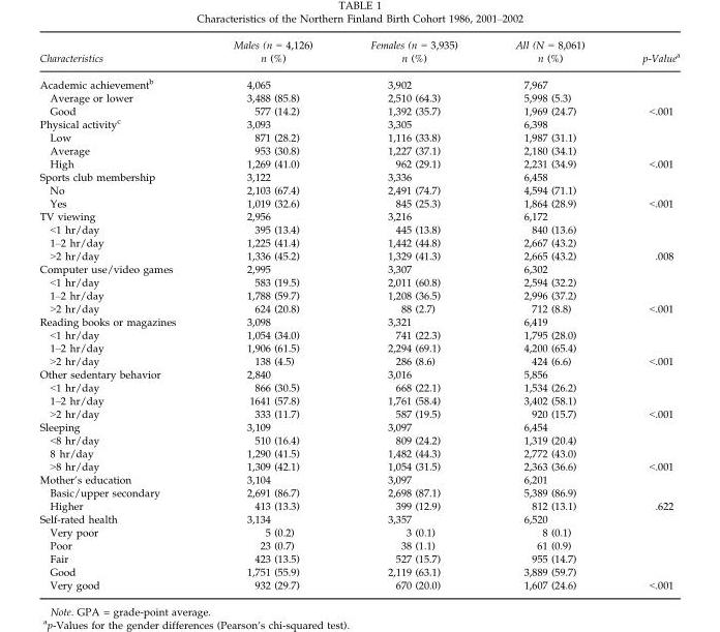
<table><thead><tr><td rowspan="2">Characteristics</td><td rowspan="2">Males (n = 4,126) n (%)</td><td rowspan="2">Females (n = 3,935) n (%)</td><td rowspan="2">All (N = 8,061) n (%)</td><td rowspan="2">p-Valuea</td></tr><tr></tr></thead><tbody><tr><td>Academic achievement<sup>b</sup></td><td>4,065</td><td>3,902</td><td>7,967</td><td></td></tr><tr><td>Average or lower</td><td>3,488 (85.8)</td><td>2,510 (64.3)</td><td>5,998 (5.3)</td><td></td></tr><tr><td>Good</td><td>577 (14.2)</td><td>1,392 (35.7)</td><td>1,969 (24.7)</td><td>&lt;.001</td></tr><tr><td>Physical activity<sup>c</sup></td><td>3,093</td><td>3,305</td><td>6,398</td><td></td></tr><tr><td>Low</td><td>871 (28.2)</td><td>1,116 (33.8)</td><td>1,987 (31.1)</td><td></td></tr><tr><td>Average</td><td>953 (30.8)</td><td>1,227 (37.1)</td><td>2,180 (34.1)</td><td></td></tr><tr><td>High</td><td>1,269 (41.0)</td><td>962 (29.1)</td><td>2,231 (34.9)</td><td>&lt;.001</td></tr><tr><td>Sports club membership</td><td>3,122</td><td>3,336</td><td>6,458</td><td></td></tr><tr><td>No</td><td>2,103 (67.4)</td><td>2,491 (74.7)</td><td>4,594 (71.1)</td><td></td></tr><tr><td>Yes</td><td>1,019 (32.6)</td><td>845 (25.3)</td><td>1,864 (28.9)</td><td>&lt;.001</td></tr><tr><td>TV viewing</td><td>2,956</td><td>3,216</td><td>6,172</td><td></td></tr><tr><td>&lt;1 hr/day</td><td>395 (13.4)</td><td>445 (13.8)</td><td>840 (13.6)</td><td></td></tr><tr><td>1–2 hr/day</td><td>1,225 (41.4)</td><td>1,442 (44.8)</td><td>2,667 (43.2)</td><td></td></tr><tr><td>&gt;2 hr/day</td><td>1,336 (45.2)</td><td>1,329 (41.3)</td><td>2,665 (43.2)</td><td>.008</td></tr><tr><td>Computer use/video games</td><td>2,995</td><td>3,307</td><td>6,302</td><td></td></tr><tr><td>&lt;1 hr/day</td><td>583 (19.5)</td><td>2,011 (60.8)</td><td>2,594 (32.2)</td><td></td></tr><tr><td>1–2 hr/day</td><td>1,788 (59.7)</td><td>1,208 (36.5)</td><td>2,996 (37.2)</td><td></td></tr><tr><td>&gt;2 hr/day</td><td>624 (20.8)</td><td>88 (2.7)</td><td>712 (8.8)</td><td>&lt;.001</td></tr><tr><td>Reading books or magazines</td><td>3,098</td><td>3,321</td><td>6,419</td><td></td></tr><tr><td>&lt;1 hr/day</td><td>1,054 (34.0)</td><td>741 (22.3)</td><td>1,795 (28.0)</td><td></td></tr><tr><td>1–2 hr/day</td><td>1,906 (61.5)</td><td>2,294 (69.1)</td><td>4,200 (65.4)</td><td></td></tr><tr><td>&gt;2 hr/day</td><td>138 (4.5)</td><td>286 (8.6)</td><td>424 (6.6)</td><td>&lt;.001</td></tr><tr><td>Other sedentary behavior</td><td>2,840</td><td>3,016</td><td>5,856</td><td></td></tr><tr><td>&lt;1 hr/day</td><td>866 (30.5)</td><td>668 (22.1)</td><td>1,534 (26.2)</td><td></td></tr><tr><td>1–2 hr/day</td><td>1641 (57.8)</td><td>1,761 (58.4)</td><td>3,402 (58.1)</td><td></td></tr><tr><td>&gt;2 hr/day</td><td>333 (11.7)</td><td>587 (19.5)</td><td>920 (15.7)</td><td>&lt;.001</td></tr><tr><td>Sleeping</td><td>3,109</td><td>3,097</td><td>6,454</td><td></td></tr><tr><td>&lt;8 hr/day</td><td>510 (16.4)</td><td>809 (24.2)</td><td>1,319 (20.4)</td><td></td></tr><tr><td>8 hr/day</td><td>1,290 (41.5)</td><td>1,482 (44.3)</td><td>2,772 (43.0)</td><td></td></tr><tr><td>&gt;8 hr/day</td><td>1,309 (42.1)</td><td>1,054 (31.5)</td><td>2,363 (36.6)</td><td>&lt;.001</td></tr><tr><td>Mother’s education</td><td>3,104</td><td>3,097</td><td>6,201</td><td></td></tr><tr><td>Basic/upper secondary</td><td>2,691 (86.7)</td><td>2,698 (87.1)</td><td>5,389 (86.9)</td><td></td></tr><tr><td>Higher</td><td>413 (13.3)</td><td>399 (12.9)</td><td>812 (13.1)</td><td>.622</td></tr><tr><td>Self-rated health</td><td>3,134</td><td>3,357</td><td>6,520</td><td></td></tr><tr><td>Very poor</td><td>5 (0.2)</td><td>3 (0.1)</td><td>8 (0.1)</td><td></td></tr><tr><td>Poor</td><td>23 (0.7)</td><td>38 (1.1)</td><td>61 (0.9)</td><td></td></tr><tr><td>Fair</td><td>423 (13.5)</td><td>527 (15.7)</td><td>955 (14.7)</td><td></td></tr><tr><td>Good</td><td>1,751 (55.9)</td><td>2,119 (63.1)</td><td>3,889 (59.7)</td><td></td></tr><tr><td>Very good</td><td>932 (29.7)</td><td>670 (20.0)</td><td>1,607 (24.6)</td><td>&lt;.001</td></tr></tbody></table>